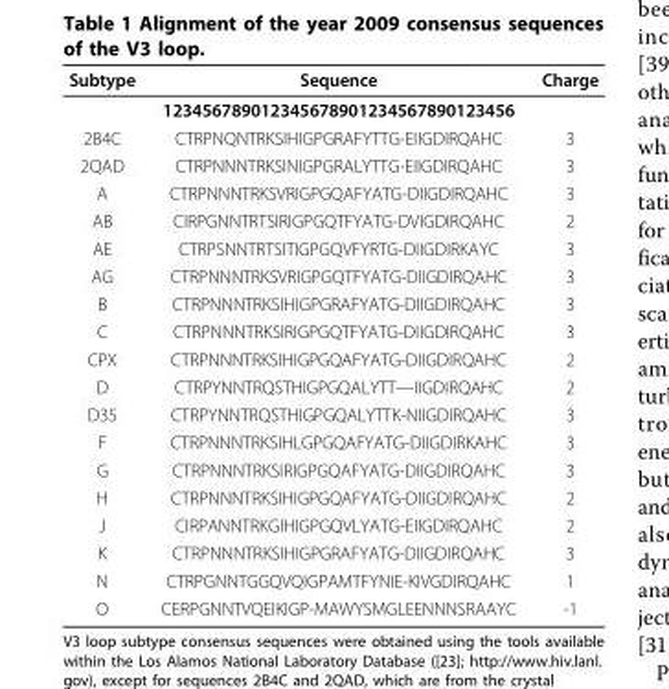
<table><thead><tr><td>Subtype</td><td>Sequence</td><td>Charge</td></tr></thead><tbody><tr><td></td><td>123456789012345678901234567890123456</td><td></td></tr><tr><td>2B4C</td><td>CTRPNQNTRKSIHIGPGRAFYTTG-EIIGDIRQAHC</td><td>3</td></tr><tr><td>2QAD</td><td>CTRPNNNTRKSINIGPGRALYTTG-EIIGDIRQAHC</td><td>3</td></tr><tr><td>A</td><td>CTRPNNNTRKSVRIGPGQAFYATG-DIIGDIRQAHC</td><td>3</td></tr><tr><td>AB</td><td>CIRPGNNTRTSIRIGPGQTFYATG-DVIGDIRQAHC</td><td>2</td></tr><tr><td>AE</td><td>CTRPSNNTRTSITIGPGQVFYRTG-DIIGDIRKAYC</td><td>3</td></tr><tr><td>AG</td><td>CTRPNNNTRKSVRIGPGQTFYATG-DIIGDIRQAHC</td><td>3</td></tr><tr><td>B</td><td>CTRPNNNTRKSIHIGPGRAFYATG-DIIGDIRQAHC</td><td>3</td></tr><tr><td>C</td><td>CTRPNNNTRKSIRIGPGQTFYATG-DIIGDIRQAHC</td><td>3</td></tr><tr><td>CPX</td><td>CTRPNNNTRKSIHIGPGQAFYATG-DIIGDIRQAHC</td><td>2</td></tr><tr><td>D</td><td>CTRPYNNTRQSTHIGPGQALYTT—IIGDIRQAHC</td><td>2</td></tr><tr><td>D35</td><td>CTRPYNNTRQSTHIGPGQALYTTK-NIIGDIRQAHC</td><td>3</td></tr><tr><td>F</td><td>CTRPNNNTRKSIHLGPGQAFYATG-DIIGDIRKAHC</td><td>3</td></tr><tr><td>G</td><td>CTRPNNNTRKSIRIGPGQAFYATG-DIIGDIRQAHC</td><td>3</td></tr><tr><td>H</td><td>CTRPNNNTRKSIHIGPGQAFYATG-DIIGDIRQAHC</td><td>2</td></tr><tr><td>J</td><td>CIRPANNTRKGIHIGPGQVLYATG-EIIGDIRQAHC</td><td>2</td></tr><tr><td>K</td><td>CTRPNNNTRKSIHIGPGRAFYATG-DIIGDIRQAHC</td><td>3</td></tr><tr><td>N</td><td>CTRPGNNTGGQVQIGPAMTFYNIE-KIVGDIRQAHC</td><td>1</td></tr><tr><td>O</td><td>CERPGNNTVQEIKIGP-MAWYSMGLEENNNSRAAYC</td><td>-1</td></tr></tbody></table>